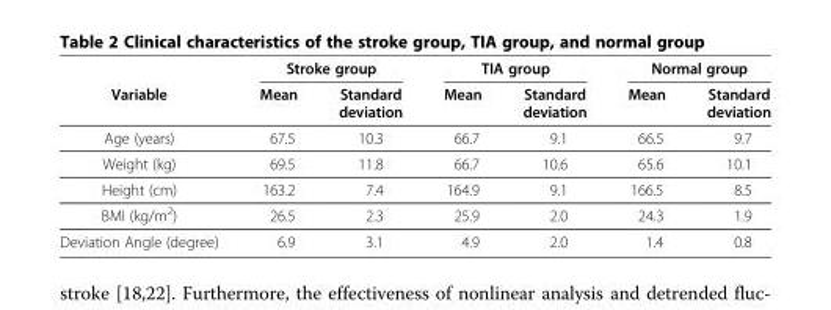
<table><thead><tr><td rowspan="2">Variable</td><td colspan="2">Stroke group</td><td colspan="2">TIA group</td><td colspan="2">Normal group</td></tr><tr><td>Mean</td><td>Standard deviation</td><td>Mean</td><td>Standard deviation</td><td>Mean</td><td>Standard deviation</td></tr></thead><tbody><tr><td>Age (years)</td><td>67.5</td><td>10.3</td><td>66.7</td><td>9.1</td><td>66.5</td><td>9.7</td></tr><tr><td>Weight (kg)</td><td>69.5</td><td>11.8</td><td>66.7</td><td>10.6</td><td>65.6</td><td>10.1</td></tr><tr><td>Height (cm)</td><td>163.2</td><td>7.4</td><td>164.9</td><td>9.1</td><td>166.5</td><td>8.5</td></tr><tr><td>BMI (kg/m<sup>2</sup>)</td><td>26.5</td><td>2.3</td><td>25.9</td><td>2.0</td><td>24.3</td><td>1.9</td></tr><tr><td>Deviation Angle (degree)</td><td>6.9</td><td>3.1</td><td>4.9</td><td>2.0</td><td>1.4</td><td>0.8</td></tr></tbody></table>